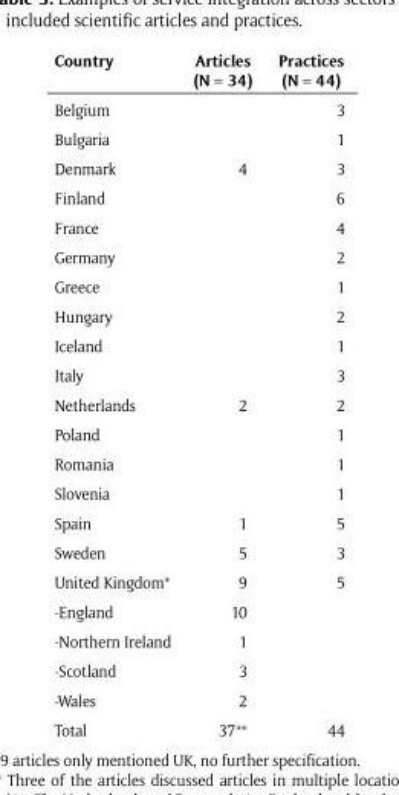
<table><thead><tr><td>Country</td><td>Articles (N = 34)</td><td>Practices (N = 44)</td></tr></thead><tbody><tr><td>Belgium</td><td></td><td>3</td></tr><tr><td>Bulgaria</td><td></td><td>1</td></tr><tr><td>Denmark</td><td>4</td><td>3</td></tr><tr><td>Finland</td><td></td><td>6</td></tr><tr><td>France</td><td></td><td>4</td></tr><tr><td>Germany</td><td></td><td>2</td></tr><tr><td>Greece</td><td></td><td>1</td></tr><tr><td>Hungary</td><td></td><td>2</td></tr><tr><td>Iceland</td><td></td><td>1</td></tr><tr><td>Italy</td><td></td><td>3</td></tr><tr><td>Netherlands</td><td>2</td><td>2</td></tr><tr><td>Poland</td><td></td><td>1</td></tr><tr><td>Romania</td><td></td><td>1</td></tr><tr><td>Slovenia</td><td></td><td>1</td></tr><tr><td>Spain</td><td>1</td><td>5</td></tr><tr><td>Sweden</td><td>5</td><td>3</td></tr><tr><td>United Kingdom*</td><td>9</td><td>5</td></tr><tr><td>-England</td><td>10</td><td></td></tr><tr><td>-Northern Ireland</td><td>1</td><td></td></tr><tr><td>-Scotland</td><td>3</td><td></td></tr><tr><td>-Wales</td><td>2</td><td></td></tr><tr><td>Total</td><td>37**</td><td>44</td></tr></tbody></table>